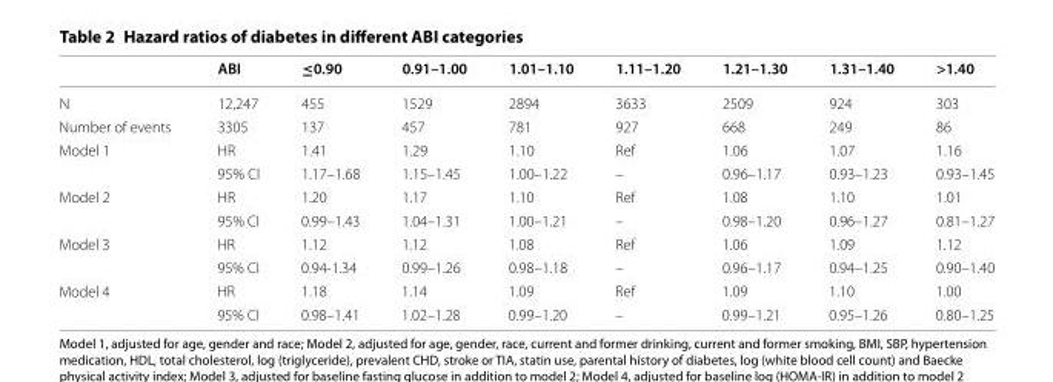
<table><thead><tr><td></td><td>ABI</td><td>≤0.90</td><td>0.91–1.00</td><td>1.01–1.10</td><td>1.11–1.20</td><td>1.21–1.30</td><td>1.31–1.40</td><td>&gt;1.40</td></tr></thead><tbody><tr><td>N</td><td>12,247</td><td>455</td><td>1529</td><td>2894</td><td>3633</td><td>2509</td><td>924</td><td>303</td></tr><tr><td>Number of events</td><td>3305</td><td>137</td><td>457</td><td>781</td><td>927</td><td>668</td><td>249</td><td>86</td></tr><tr><td rowspan="2">Model 1</td><td>HR</td><td>1.41</td><td>1.29</td><td>1.10</td><td>Ref</td><td>1.06</td><td>1.07</td><td>1.16</td></tr><tr><td>95% CI</td><td>1.17–1.68</td><td>1.15–1.45</td><td>1.00–1.22</td><td>–</td><td>0.96–1.17</td><td>0.93–1.23</td><td>0.93–1.45</td></tr><tr><td rowspan="2">Model 2</td><td>HR</td><td>1.20</td><td>1.17</td><td>1.10</td><td>Ref</td><td>1.08</td><td>1.10</td><td>1.01</td></tr><tr><td>95% CI</td><td>0.99–1.43</td><td>1.04–1.31</td><td>1.00–1.21</td><td>–</td><td>0.98–1.20</td><td>0.96–1.27</td><td>0.81–1.27</td></tr><tr><td rowspan="2">Model 3</td><td>HR</td><td>1.12</td><td>1.12</td><td>1.08</td><td>Ref</td><td>1.06</td><td>1.09</td><td>1.12</td></tr><tr><td>95% CI</td><td>0.94-1.34</td><td>0.99–1.26</td><td>0.98–1.18</td><td>–</td><td>0.96–1.17</td><td>0.94–1.25</td><td>0.90–1.40</td></tr><tr><td rowspan="2">Model 4</td><td>HR</td><td>1.18</td><td>1.14</td><td>1.09</td><td>Ref</td><td>1.09</td><td>1.10</td><td>1.00</td></tr><tr><td>95% CI</td><td>0.98–1.41</td><td>1.02–1.28</td><td>0.99–1.20</td><td>–</td><td>0.99–1.21</td><td>0.95–1.26</td><td>0.80–1.25</td></tr></tbody></table>